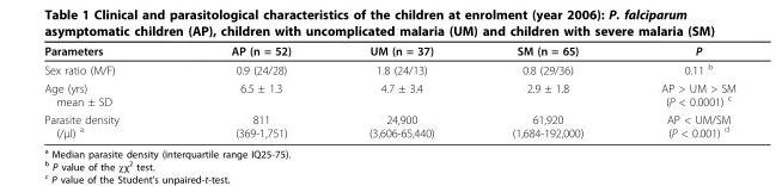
<table><thead><tr><td>Parameters</td><td>AP (n = 52)</td><td>UM (n = 37)</td><td>SM (n = 65)</td><td>P</td></tr></thead><tbody><tr><td>Sex ratio (M/F)</td><td>0.9 (24/28)</td><td>1.8 (24/13)</td><td>0.8 (29/36)</td><td>0.11 <sup>b</sup></td></tr><tr><td>Age (yrs) mean ± SD</td><td>6.5 ± 1.3</td><td>4.7 ± 3.4</td><td>2.9 ± 1.8</td><td>AP &gt; UM &gt; SM (P &lt; 0.0001) <sup>c</sup></td></tr><tr><td>Parasite density (/μl) <sup>a</sup></td><td>811 (369-1,751)</td><td>24,900 (3,606-65,440)</td><td>61,920 (1,684-192,000)</td><td>AP &lt; UM/SM (P &lt; 0.001) <sup>d</sup></td></tr></tbody></table>